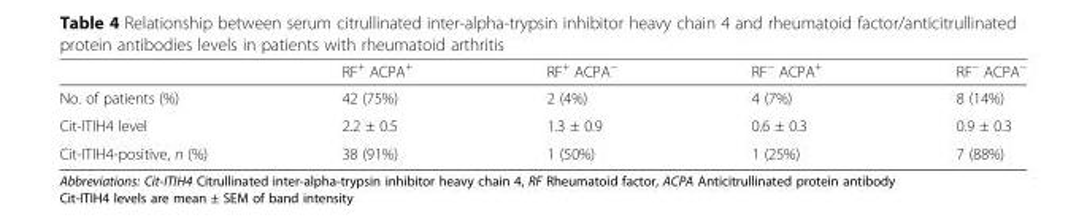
<table><thead><tr><td></td><td>RF<sup>+</sup> ACPA<sup>+</sup></td><td>RF<sup>+</sup> ACPA<sup>−</sup></td><td>RF<sup>−</sup> ACPA<sup>+</sup></td><td>RF<sup>−</sup> ACPA<sup>−</sup></td></tr></thead><tbody><tr><td>No. of patients (%)</td><td>42 (75%)</td><td>2 (4%)</td><td>4 (7%)</td><td>8 (14%)</td></tr><tr><td>Cit-ITIH4 level</td><td>2.2 ± 0.5</td><td>1.3 ± 0.9</td><td>0.6 ± 0.3</td><td>0.9 ± 0.3</td></tr><tr><td>Cit-ITIH4-positive, n (%)</td><td>38 (91%)</td><td>1 (50%)</td><td>1 (25%)</td><td>7 (88%)</td></tr></tbody></table>